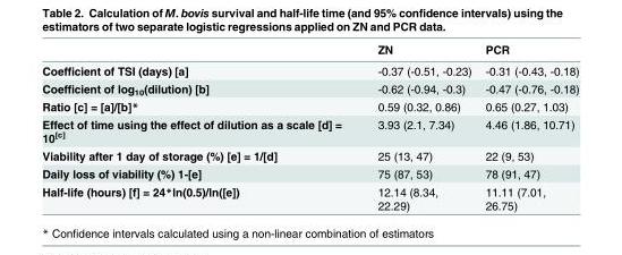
<table><thead><tr><td></td><td>ZN</td><td>PCR</td></tr></thead><tbody><tr><td>Coefficient of TSI (days) [a]</td><td>-0.37 (-0.51, -0.23)</td><td>-0.31 (-0.43, -0.18)</td></tr><tr><td>Coefficient of log<sub>10</sub>(dilution) [b]</td><td>-0.62 (-0.94, -0.3)</td><td>-0.47 (-0.76, -0.18)</td></tr><tr><td>Ratio [c] = [a]/[b]*</td><td>0.59 (0.32, 0.86)</td><td>0.65 (0.27, 1.03)</td></tr><tr><td>Effect of time using the effect of dilution as a scale [d] = 10<sup>[c]</sup></td><td>3.93 (2.1, 7.34)</td><td>4.46 (1.86, 10.71)</td></tr><tr><td>Viability after 1 day of storage (%) [e] = 1/[d]</td><td>25 (13, 47)</td><td>22 (9, 53)</td></tr><tr><td>Daily loss of viability (%) 1-[e]</td><td>75 (87, 53)</td><td>78 (91, 47)</td></tr><tr><td>Half-life (hours) [f] = 24*ln(0.5)/ln([e])</td><td>12.14 (8.34, 22.29)</td><td>11.11 (7.01, 26.75)</td></tr></tbody></table>